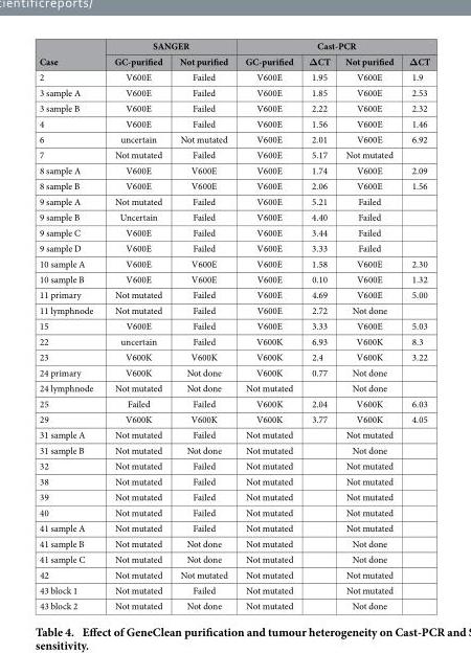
<table><thead><tr><td rowspan="2">Case</td><td colspan="2">SANGER</td><td colspan="4">Cast-PCR</td></tr><tr><td>GC-purified</td><td>Not purified</td><td>GC-purified</td><td>ΔCT</td><td>Not purified</td><td>ΔCT</td></tr></thead><tbody><tr><td>2</td><td>V600E</td><td>Failed</td><td>V600E</td><td>1.95</td><td>V600E</td><td>1.9</td></tr><tr><td>3 sample A</td><td>V600E</td><td>Failed</td><td>V600E</td><td>1.85</td><td>V600E</td><td>2.53</td></tr><tr><td>3 sample B</td><td>V600E</td><td>Failed</td><td>V600E</td><td>2.22</td><td>V600E</td><td>2.32</td></tr><tr><td>4</td><td>V600E</td><td>Failed</td><td>V600E</td><td>1.56</td><td>V600E</td><td>1.46</td></tr><tr><td>6</td><td>uncertain</td><td>Not mutated</td><td>V600E</td><td>2.01</td><td>V600E</td><td>6.92</td></tr><tr><td>7</td><td>Not mutated</td><td>Failed</td><td>V600E</td><td>5.17</td><td>Not mutated</td><td></td></tr><tr><td>8 sample A</td><td>V600E</td><td>V600E</td><td>V600E</td><td>1.74</td><td>V600E</td><td>2.09</td></tr><tr><td>8 sample B</td><td>V600E</td><td>V600E</td><td>V600E</td><td>2.06</td><td>V600E</td><td>1.56</td></tr><tr><td>9 sample A</td><td>Not mutated</td><td>Failed</td><td>V600E</td><td>5.21</td><td>Failed</td><td></td></tr><tr><td>9 sample B</td><td>Uncertain</td><td>Failed</td><td>V600E</td><td>4.40</td><td>Failed</td><td></td></tr><tr><td>9 sample C</td><td>V600E</td><td>Failed</td><td>V600E</td><td>3.44</td><td>Failed</td><td></td></tr><tr><td>9 sample D</td><td>V600E</td><td>Failed</td><td>V600E</td><td>3.33</td><td>Failed</td><td></td></tr><tr><td>10 sample A</td><td>V600E</td><td>V600E</td><td>V600E</td><td>1.58</td><td>V600E</td><td>2.30</td></tr><tr><td>10 sample B</td><td>V600E</td><td>V600E</td><td>V600E</td><td>0.10</td><td>V600E</td><td>1.32</td></tr><tr><td>11 primary</td><td>Not mutated</td><td>Failed</td><td>V600E</td><td>4.69</td><td>V600E</td><td>5.00</td></tr><tr><td>11 lymphnode</td><td>Not mutated</td><td>Failed</td><td>V600E</td><td>2.72</td><td>Not done</td><td></td></tr><tr><td>15</td><td>V600E</td><td>Failed</td><td>V600E</td><td>3.33</td><td>V600E</td><td>5.03</td></tr><tr><td>22</td><td>uncertain</td><td>Failed</td><td>V600K</td><td>6.93</td><td>V600K</td><td>8.3</td></tr><tr><td>23</td><td>V600K</td><td>V600K</td><td>V600K</td><td>2.4</td><td>V600K</td><td>3.22</td></tr><tr><td>24 primary</td><td>V600K</td><td>Not done</td><td>V600K</td><td>0.77</td><td>Not done</td><td></td></tr><tr><td>24 lymphnode</td><td>Not mutated</td><td>Not done</td><td>Not mutated</td><td></td><td>Not done</td><td></td></tr><tr><td>25</td><td>Failed</td><td>Failed</td><td>V600K</td><td>2.04</td><td>V600K</td><td>6.03</td></tr><tr><td>29</td><td>V600K</td><td>V600K</td><td>V600K</td><td>3.77</td><td>V600K</td><td>4.05</td></tr><tr><td>31 sample A</td><td>Not mutated</td><td>Failed</td><td>Not mutated</td><td></td><td>Not mutated</td><td></td></tr><tr><td>31 sample B</td><td>Not mutated</td><td>Not done</td><td>Not mutated</td><td></td><td>Not done</td><td></td></tr><tr><td>32</td><td>Not mutated</td><td>Failed</td><td>Not mutated</td><td></td><td>Not mutated</td><td></td></tr><tr><td>38</td><td>Not mutated</td><td>Failed</td><td>Not mutated</td><td></td><td>Not mutated</td><td></td></tr><tr><td>39</td><td>Not mutated</td><td>Failed</td><td>Not mutated</td><td></td><td>Not mutated</td><td></td></tr><tr><td>40</td><td>Not mutated</td><td>Failed</td><td>Not mutated</td><td></td><td>Not mutated</td><td></td></tr><tr><td>41 sample A</td><td>Not mutated</td><td>Failed</td><td>Not mutated</td><td></td><td>Not mutated</td><td></td></tr><tr><td>41 sample B</td><td>Not mutated</td><td>Not done</td><td>Not mutated</td><td></td><td>Not done</td><td></td></tr><tr><td>41 sample C</td><td>Not mutated</td><td>Not done</td><td>Not mutated</td><td></td><td>Not done</td><td></td></tr><tr><td>42</td><td>Not mutated</td><td>Not mutated</td><td>Not mutated</td><td></td><td>Not mutated</td><td></td></tr><tr><td>43 block 1</td><td>Not mutated</td><td>Failed</td><td>Not mutated</td><td></td><td>Not mutated</td><td></td></tr><tr><td>43 block 2</td><td>Not mutated</td><td>Not done</td><td>Not mutated</td><td></td><td>Not done</td><td></td></tr></tbody></table>